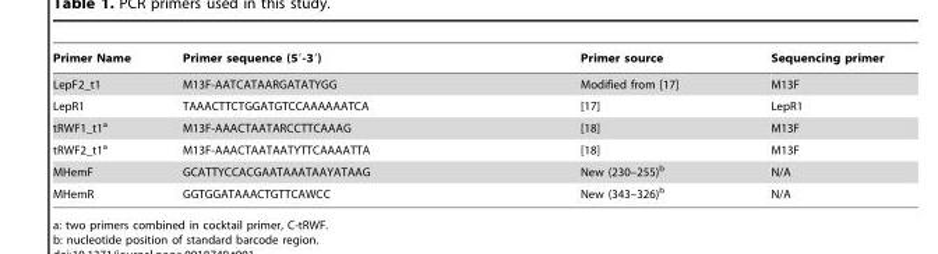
<table><thead><tr><td>Primer Name</td><td>Primer sequence (5′-3′)</td><td>Primer source</td><td>Sequencing primer</td></tr></thead><tbody><tr><td>LepF2_t1</td><td>M13F-AATCATAARGATATYGG</td><td>Modified from [17]</td><td>M13F</td></tr><tr><td>LepR1</td><td>TAAACTTCTGGATGTCCAAAAAATCA</td><td>[17]</td><td>LepR1</td></tr><tr><td>tRWF1_t1<sup>a</sup></td><td>M13F-AAACTAATARCCTTCAAAG</td><td>[18]</td><td>M13F</td></tr><tr><td>tRWF2_t1<sup>a</sup></td><td>M13F-AAACTAATAATYTTCAAAATTA</td><td>[18]</td><td>M13F</td></tr><tr><td>MHemF</td><td>GCATTYCCACGAATAAATAAYATAAG</td><td>New (230–255)<sup>b</sup></td><td>N/A</td></tr><tr><td>MHemR</td><td>GGTGGATAAACTGTTCAWCC</td><td>New (343–326)<sup>b</sup></td><td>N/A</td></tr></tbody></table>